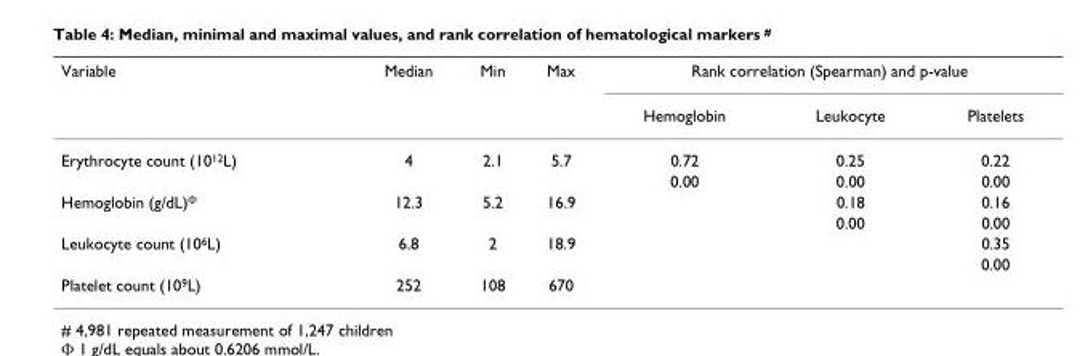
<table><thead><tr><td rowspan="2">Variable</td><td rowspan="2">Median</td><td rowspan="2">Min</td><td rowspan="2">Max</td><td colspan="3">Rank correlation (Spearman) and p-value</td></tr><tr><td>Hemoglobin</td><td>Leukocyte</td><td>Platelets</td></tr></thead><tbody><tr><td rowspan="2">Erythrocyte count (10<sup>12</sup>L)</td><td>4</td><td>2.1</td><td>5.7</td><td>0.72</td><td>0.25</td><td>0.22</td></tr><tr><td></td><td></td><td></td><td>0.00</td><td>0.00</td><td>0.00</td></tr><tr><td rowspan="2">Hemoglobin (g/dL)<sup>Φ</sup></td><td>12.3</td><td>5.2</td><td>16.9</td><td></td><td>0.18</td><td>0.16</td></tr><tr><td></td><td></td><td></td><td></td><td>0.00</td><td>0.00</td></tr><tr><td rowspan="2">Leukocyte count (10<sup>6</sup>L)</td><td>6.8</td><td>2</td><td>18.9</td><td></td><td></td><td>0.35</td></tr><tr><td></td><td></td><td></td><td></td><td></td><td>0.00</td></tr><tr><td>Platelet count (10<sup>9</sup>L)</td><td>252</td><td>108</td><td>670</td><td></td><td></td><td></td></tr></tbody></table>